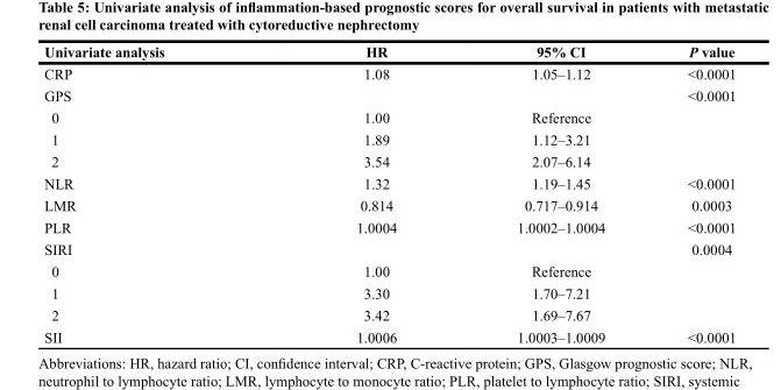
<table><thead><tr><td>Univariate analysis</td><td>HR</td><td>95% CI</td><td>P value</td></tr></thead><tbody><tr><td>CRP</td><td>1.08</td><td>1.05–1.12</td><td>&lt;0.0001</td></tr><tr><td>GPS</td><td></td><td></td><td>&lt;0.0001</td></tr><tr><td>0</td><td>1.00</td><td>Reference</td><td></td></tr><tr><td>1</td><td>1.89</td><td>1.12–3.21</td><td></td></tr><tr><td>2</td><td>3.54</td><td>2.07–6.14</td><td></td></tr><tr><td>NLR</td><td>1.32</td><td>1.19–1.45</td><td>&lt;0.0001</td></tr><tr><td>LMR</td><td>0.814</td><td>0.717–0.914</td><td>0.0003</td></tr><tr><td>PLR</td><td>1.0004</td><td>1.0002–1.0004</td><td>&lt;0.0001</td></tr><tr><td>SIRI</td><td></td><td></td><td>0.0004</td></tr><tr><td>0</td><td>1.00</td><td>Reference</td><td></td></tr><tr><td>1</td><td>3.30</td><td>1.70–7.21</td><td></td></tr><tr><td>2</td><td>3.42</td><td>1.69–7.67</td><td></td></tr><tr><td>SII</td><td>1.0006</td><td>1.0003–1.0009</td><td>&lt;0.0001</td></tr></tbody></table>